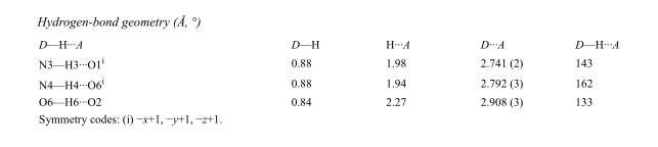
<table><tbody><tr><td>D—H···A</td><td>D—H</td><td>H···A</td><td>D···A</td><td>D—H···A</td></tr><tr><td>N3—H3···O1<sup>i</sup></td><td>0.88</td><td>1.98</td><td>2.741 (2)</td><td>143</td></tr><tr><td>N4—H4···O6<sup>i</sup></td><td>0.88</td><td>1.94</td><td>2.792 (3)</td><td>162</td></tr><tr><td>O6—H6···O2</td><td>0.84</td><td>2.27</td><td>2.908 (3)</td><td>133</td></tr></tbody></table>